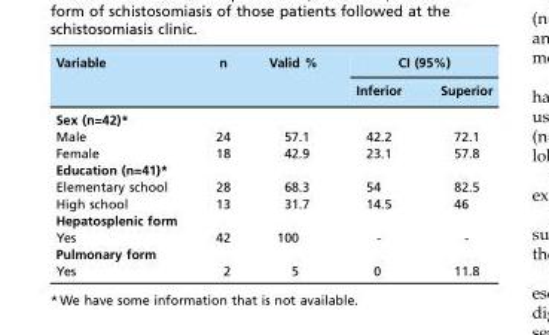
<table><thead><tr><td rowspan="2">Variable</td><td rowspan="2">n</td><td rowspan="2">Valid %</td><td colspan="2">CI (95%)</td></tr><tr><td>Inferior</td><td>Superior</td></tr></thead><tbody><tr><td colspan="5">Sex (n=42)*</td></tr><tr><td>Male</td><td>24</td><td>57.1</td><td>42.2</td><td>72.1</td></tr><tr><td>Female</td><td>18</td><td>42.9</td><td>23.1</td><td>57.8</td></tr><tr><td colspan="5">Education (n=41)*</td></tr><tr><td>Elementary school</td><td>28</td><td>68.3</td><td>54</td><td>82.5</td></tr><tr><td>High school</td><td>13</td><td>31.7</td><td>14.5</td><td>46</td></tr><tr><td colspan="5">Hepatosplenic form</td></tr><tr><td>Yes</td><td>42</td><td>100</td><td>-</td><td>-</td></tr><tr><td colspan="5">Pulmonary form</td></tr><tr><td>Yes</td><td>2</td><td>5</td><td>0</td><td>11.8</td></tr></tbody></table>